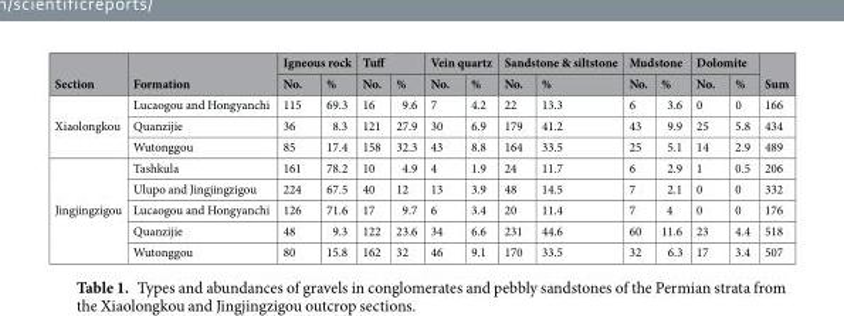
<table><thead><tr><td rowspan="2">Section</td><td rowspan="2">Formation</td><td colspan="2">Igneous rock</td><td colspan="2">Tuff</td><td colspan="2">Vein quartz</td><td colspan="2">Sandstone &amp; siltstone</td><td colspan="2">Mudstone</td><td colspan="2">Dolomite</td><td rowspan="2">Sum</td></tr><tr><td>No.</td><td>%</td><td>No.</td><td>%</td><td>No.</td><td>%</td><td>No.</td><td>%</td><td>No.</td><td>%</td><td>No.</td><td>%</td></tr></thead><tbody><tr><td rowspan="3">Xiaolongkou</td><td>Lucaogou and Hongyanchi</td><td>115</td><td>69.3</td><td>16</td><td>9.6</td><td>7</td><td>4.2</td><td>22</td><td>13.3</td><td>6</td><td>3.6</td><td>0</td><td>0</td><td>166</td></tr><tr><td>Quanzijie</td><td>36</td><td>8.3</td><td>121</td><td>27.9</td><td>30</td><td>6.9</td><td>179</td><td>41.2</td><td>43</td><td>9.9</td><td>25</td><td>5.8</td><td>434</td></tr><tr><td>Wutonggou</td><td>85</td><td>17.4</td><td>158</td><td>32.3</td><td>43</td><td>8.8</td><td>164</td><td>33.5</td><td>25</td><td>5.1</td><td>14</td><td>2.9</td><td>489</td></tr><tr><td rowspan="5">Jingjingzigou</td><td>Tashkula</td><td>161</td><td>78.2</td><td>10</td><td>4.9</td><td>4</td><td>1.9</td><td>24</td><td>11.7</td><td>6</td><td>2.9</td><td>1</td><td>0.5</td><td>206</td></tr><tr><td>Ulupo and Jingjingzigou</td><td>224</td><td>67.5</td><td>40</td><td>12</td><td>13</td><td>3.9</td><td>48</td><td>14.5</td><td>7</td><td>2.1</td><td>0</td><td>0</td><td>332</td></tr><tr><td>Lucaogou and Hongyanchi</td><td>126</td><td>71.6</td><td>17</td><td>9.7</td><td>6</td><td>3.4</td><td>20</td><td>11.4</td><td>7</td><td>4</td><td>0</td><td>0</td><td>176</td></tr><tr><td>Quanzijie</td><td>48</td><td>9.3</td><td>122</td><td>23.6</td><td>34</td><td>6.6</td><td>231</td><td>44.6</td><td>60</td><td>11.6</td><td>23</td><td>4.4</td><td>518</td></tr><tr><td>Wutonggou</td><td>80</td><td>15.8</td><td>162</td><td>32</td><td>46</td><td>9.1</td><td>170</td><td>33.5</td><td>32</td><td>6.3</td><td>17</td><td>3.4</td><td>507</td></tr></tbody></table>